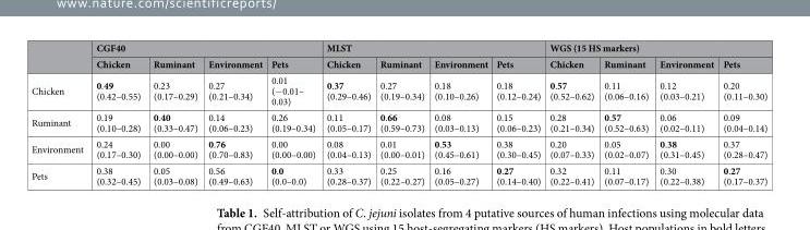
<table><thead><tr><td rowspan="2"></td><td colspan="4">CGF40</td><td colspan="4">MLST</td><td colspan="4">WGS (15 HS markers)</td></tr><tr><td>Chicken</td><td>Ruminant</td><td>Environment</td><td>Pets</td><td>Chicken</td><td>Ruminant</td><td>Environment</td><td>Pets</td><td>Chicken</td><td>Ruminant</td><td>Environment</td><td>Pets</td></tr></thead><tbody><tr><td>Chicken</td><td>0.49 (0.42–0.55)</td><td>0.23 (0.17–0.29)</td><td>0.27 (0.21–0.34)</td><td>0.01 (−0.01– 0.03)</td><td>0.37 (0.29–0.46)</td><td>0.27 (0.19–0.34)</td><td>0.18 (0.10–0.26)</td><td>0.18 (0.12–0.24)</td><td>0.57 (0.52–0.62)</td><td>0.11 (0.06–0.16)</td><td>0.12 (0.03–0.21)</td><td>0.20 (0.11–0.30)</td></tr><tr><td>Ruminant</td><td>0.19 (0.10–0.28)</td><td>0.40 (0.33–0.47)</td><td>0.14 (0.06–0.23)</td><td>0.26 (0.19–0.34)</td><td>0.11 (0.05–0.17)</td><td>0.66 (0.59–0.73)</td><td>0.08 (0.03–0.13)</td><td>0.15 (0.06–0.23)</td><td>0.28 (0.21–0.34)</td><td>0.57 (0.52–0.63)</td><td>0.06 (0.02–0.11)</td><td>0.09 (0.04–0.14)</td></tr><tr><td>Environment</td><td>0.24 (0.17–0.30)</td><td>0.00 (0.00–0.00)</td><td>0.76 (0.70–0.83)</td><td>0.00 (0.00–0.00)</td><td>0.08 (0.04–0.13)</td><td>0.01 (0.00–0.01)</td><td>0.53 (0.45–0.61)</td><td>0.38 (0.30–0.45)</td><td>0.20 (0.07–0.33)</td><td>0.05 (0.02–0.07)</td><td>0.38 (0.31–0.45)</td><td>0.37 (0.28–0.47)</td></tr><tr><td>Pets</td><td>0.38 (0.32–0.45)</td><td>0.05 (0.03–0.08)</td><td>0.56 (0.49–0.63)</td><td>0.0 (0.0–0.0)</td><td>0.33 (0.28–0.37)</td><td>0.25 (0.22–0.27)</td><td>0.16 (0.05–0.27)</td><td>0.27 (0.14–0.40)</td><td>0.32 (0.22–0.41)</td><td>0.11 (0.07–0.17)</td><td>0.30 (0.22–0.38)</td><td>0.27 (0.17–0.37)</td></tr></tbody></table>